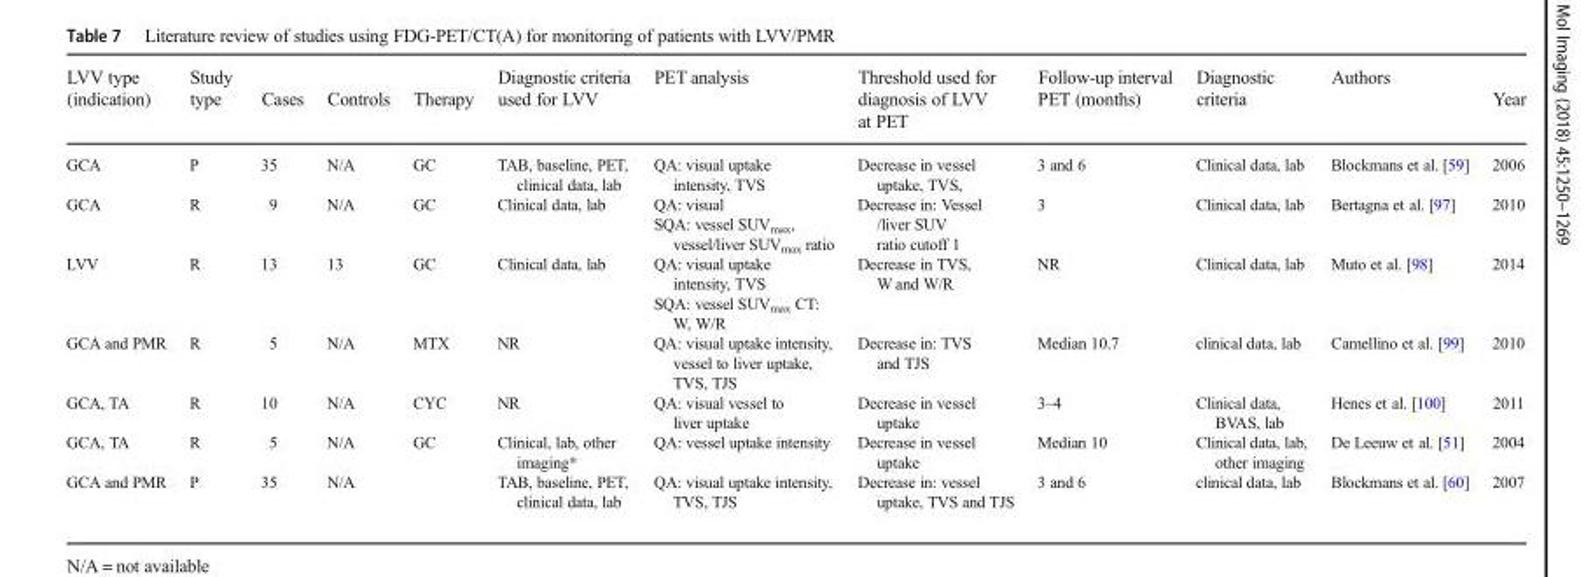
<table><thead><tr><td>LVV type (indication)</td><td>Study type</td><td>Cases</td><td>Controls</td><td>Therapy</td><td>Diagnostic criteria used for LVV</td><td>PET analysis</td><td>Threshold used for diagnosis of LVV at PET</td><td>Follow-up interval PET (months)</td><td>Diagnostic criteria</td><td>Authors</td><td>Year</td></tr></thead><tbody><tr><td>GCA</td><td>P</td><td>35</td><td>N/A</td><td>GC</td><td>TAB, baseline, PET, clinical data, lab</td><td>QA: visual uptake intensity, TVS</td><td>Decrease in vessel uptake, TVS,</td><td>3 and 6</td><td>Clinical data, lab</td><td>Blockmans et al. [59]</td><td>2006</td></tr><tr><td>GCA</td><td>R</td><td>9</td><td>N/A</td><td>GC</td><td>Clinical data, lab</td><td>QA: visual SQA: vessel SUV<sub>max</sub>, vessel/liver SUV<sub>max</sub> ratio</td><td>Decrease in: Vessel /liver SUV ratio cutoff 1</td><td>3</td><td>Clinical data, lab</td><td>Bertagna et al. [97]</td><td>2010</td></tr><tr><td>LVV</td><td>R</td><td>13</td><td>13</td><td>GC</td><td>Clinical data, lab</td><td>QA: visual uptake intensity, TVS SQA: vessel SUV<sub>max</sub> CT: W, W/R</td><td>Decrease in TVS, W and W/R</td><td>NR</td><td>Clinical data, lab</td><td>Muto et al. [98]</td><td>2014</td></tr><tr><td>GCA and PMR</td><td>R</td><td>5</td><td>N/A</td><td>MTX</td><td>NR</td><td>QA: visual uptake intensity, vessel to liver uptake, TVS, TJS</td><td>Decrease in: TVS and TJS</td><td>Median 10.7</td><td>clinical data, lab</td><td>Camellino et al. [99]</td><td>2010</td></tr><tr><td>GCA, TA</td><td>R</td><td>10</td><td>N/A</td><td>CYC</td><td>NR</td><td>QA: visual vessel to liver uptake</td><td>Decrease in vessel uptake</td><td>3–4</td><td>Clinical data, BVAS, lab</td><td>Henes et al. [100]</td><td>2011</td></tr><tr><td>GCA, TA</td><td>R</td><td>5</td><td>N/A</td><td>GC</td><td>Clinical, lab, other imaging*</td><td>QA: vessel uptake intensity</td><td>Decrease in vessel uptake</td><td>Median 10</td><td>Clinical data, lab, other imaging</td><td>De Leeuw et al. [51]</td><td>2004</td></tr><tr><td>GCA and PMR</td><td>P</td><td>35</td><td>N/A</td><td></td><td>TAB, baseline, PET, clinical data, lab</td><td>QA: visual uptake intensity, TVS, TJS</td><td>Decrease in: vessel uptake, TVS and TJS</td><td>3 and 6</td><td>clinical data, lab</td><td>Blockmans et al. [60]</td><td>2007</td></tr></tbody></table>